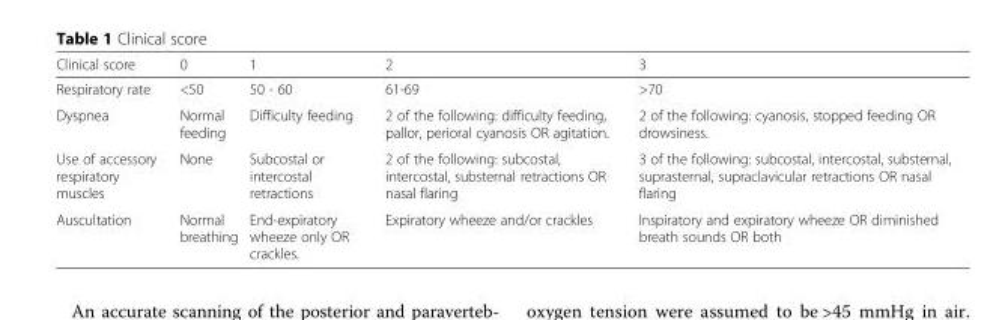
<table><thead><tr><td>Clinical score</td><td>0</td><td>1</td><td>2</td><td>3</td></tr></thead><tbody><tr><td>Respiratory rate</td><td>&lt;50</td><td>50 - 60</td><td>61-69</td><td>&gt;70</td></tr><tr><td>Dyspnea</td><td>Normal feeding</td><td>Difficulty feeding</td><td>2 of the following: difficulty feeding, pallor, perioral cyanosis OR agitation.</td><td>2 of the following: cyanosis, stopped feeding OR drowsiness.</td></tr><tr><td>Use of accessory respiratory muscles</td><td>None</td><td>Subcostal or intercostal retractions</td><td>2 of the following: subcostal, intercostal, substernal retractions OR nasal flaring</td><td>3 of the following: subcostal, intercostal, substernal, suprasternal, supraclavicular retractions OR nasal flaring</td></tr><tr><td>Auscultation</td><td>Normal breathing</td><td>End-expiratory wheeze only OR crackles.</td><td>Expiratory wheeze and/or crackles</td><td>Inspiratory and expiratory wheeze OR diminished breath sounds OR both</td></tr></tbody></table>